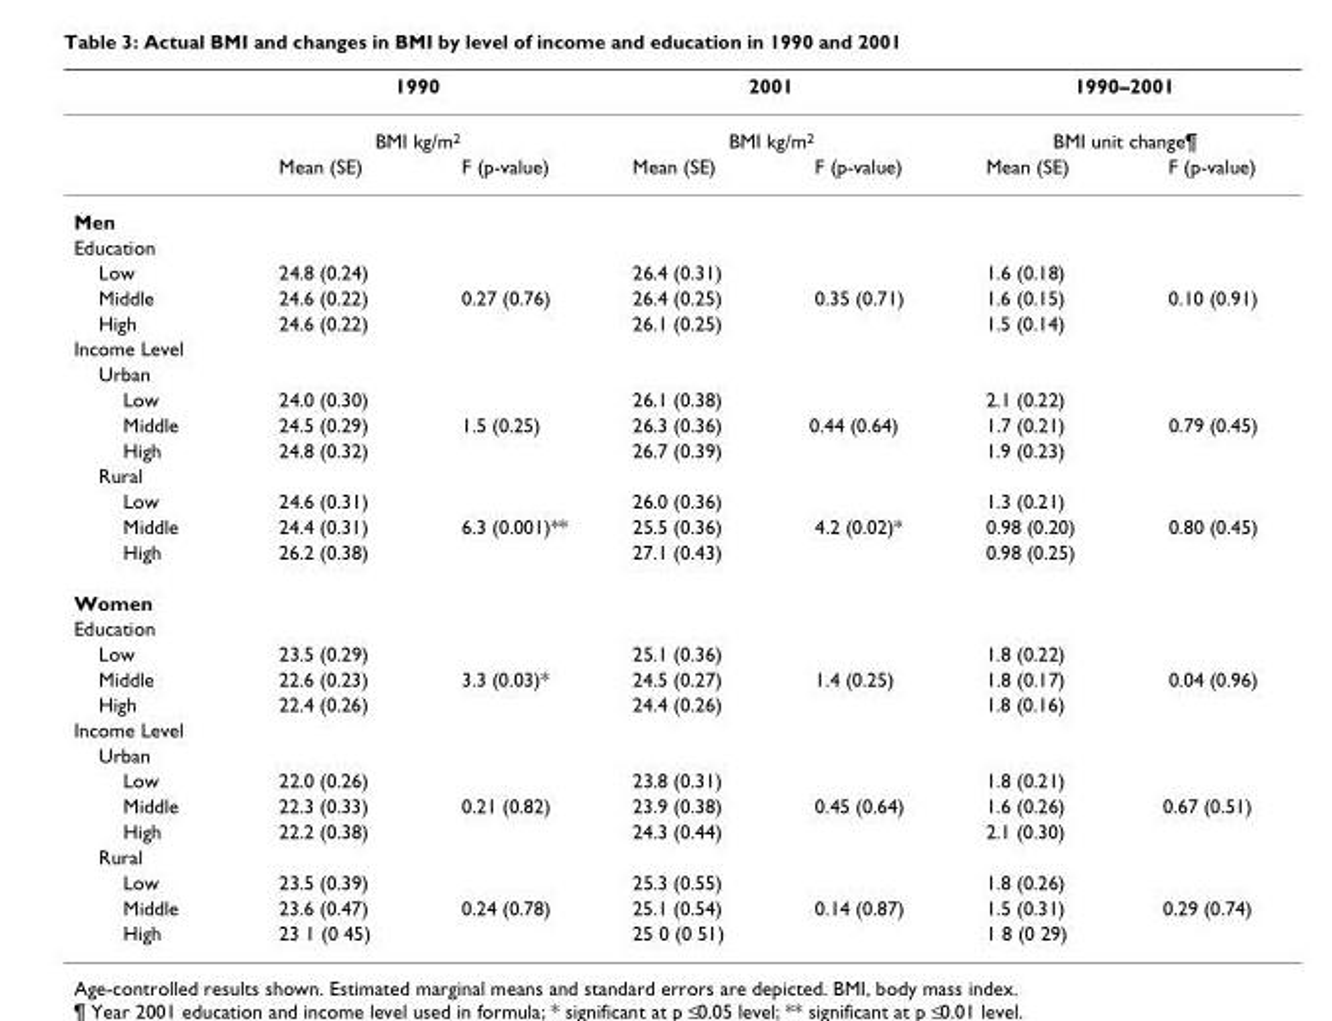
<table><thead><tr><td rowspan="3"></td><td rowspan="2" colspan="2">1990 BMI kg/m2</td><td rowspan="2" colspan="2">2001 BMI kg/m2</td><td rowspan="2" colspan="2">1990–2001 BMI unit change¶</td></tr><tr></tr><tr><td>Mean (SE)</td><td>F (p-value)</td><td>Mean (SE)</td><td>F (p-value)</td><td>Mean (SE)</td><td>F (p-value)</td></tr></thead><tbody><tr><td colspan="7">Men</td></tr><tr><td colspan="7">Education</td></tr><tr><td>Low</td><td>24.8 (0.24)</td><td></td><td>26.4 (0.31)</td><td></td><td>1.6 (0.18)</td><td></td></tr><tr><td>Middle</td><td>24.6 (0.22)</td><td>0.27 (0.76)</td><td>26.4 (0.25)</td><td>0.35 (0.71)</td><td>1.6 (0.15)</td><td>0.10 (0.91)</td></tr><tr><td>High</td><td>24.6 (0.22)</td><td></td><td>26.1 (0.25)</td><td></td><td>1.5 (0.14)</td><td></td></tr><tr><td colspan="7">Income Level</td></tr><tr><td colspan="7">Urban</td></tr><tr><td>Low</td><td>24.0 (0.30)</td><td></td><td>26.1 (0.38)</td><td></td><td>2.1 (0.22)</td><td></td></tr><tr><td>Middle</td><td>24.5 (0.29)</td><td>1.5 (0.25)</td><td>26.3 (0.36)</td><td>0.44 (0.64)</td><td>1.7 (0.21)</td><td>0.79 (0.45)</td></tr><tr><td>High</td><td>24.8 (0.32)</td><td></td><td>26.7 (0.39)</td><td></td><td>1.9 (0.23)</td><td></td></tr><tr><td colspan="7">Rural</td></tr><tr><td>Low</td><td>24.6 (0.31)</td><td></td><td>26.0 (0.36)</td><td></td><td>1.3 (0.21)</td><td></td></tr><tr><td>Middle</td><td>24.4 (0.31)</td><td>6.3 (0.001)**</td><td>25.5 (0.36)</td><td>4.2 (0.02)*</td><td>0.98 (0.20)</td><td>0.80 (0.45)</td></tr><tr><td>High</td><td>26.2 (0.38)</td><td></td><td>27.1 (0.43)</td><td></td><td>0.98 (0.25)</td><td></td></tr><tr><td colspan="7">Women</td></tr><tr><td colspan="7">Education</td></tr><tr><td>Low</td><td>23.5 (0.29)</td><td></td><td>25.1 (0.36)</td><td></td><td>1.8 (0.22)</td><td></td></tr><tr><td>Middle</td><td>22.6 (0.23)</td><td>3.3 (0.03)*</td><td>24.5 (0.27)</td><td>1.4 (0.25)</td><td>1.8 (0.17)</td><td>0.04 (0.96)</td></tr><tr><td>High</td><td>22.4 (0.26)</td><td></td><td>24.4 (0.26)</td><td></td><td>1.8 (0.16)</td><td></td></tr><tr><td colspan="7">Income Level</td></tr><tr><td colspan="7">Urban</td></tr><tr><td>Low</td><td>22.0 (0.26)</td><td></td><td>23.8 (0.31)</td><td></td><td>1.8 (0.21)</td><td></td></tr><tr><td>Middle</td><td>22.3 (0.33)</td><td>0.21 (0.82)</td><td>23.9 (0.38)</td><td>0.45 (0.64)</td><td>1.6 (0.26)</td><td>0.67 (0.51)</td></tr><tr><td>High</td><td>22.2 (0.38)</td><td></td><td>24.3 (0.44)</td><td></td><td>2.1 (0.30)</td><td></td></tr><tr><td colspan="7">Rural</td></tr><tr><td>Low</td><td>23.5 (0.39)</td><td></td><td>25.3 (0.55)</td><td></td><td>1.8 (0.26)</td><td></td></tr><tr><td>Middle</td><td>23.6 (0.47)</td><td>0.24 (0.78)</td><td>25.1 (0.54)</td><td>0.14 (0.87)</td><td>1.5 (0.31)</td><td>0.29 (0.74)</td></tr><tr><td>High</td><td>23 1 (0 45)</td><td></td><td>25 0 (0 51)</td><td></td><td>1 8 (0 29)</td><td></td></tr></tbody></table>